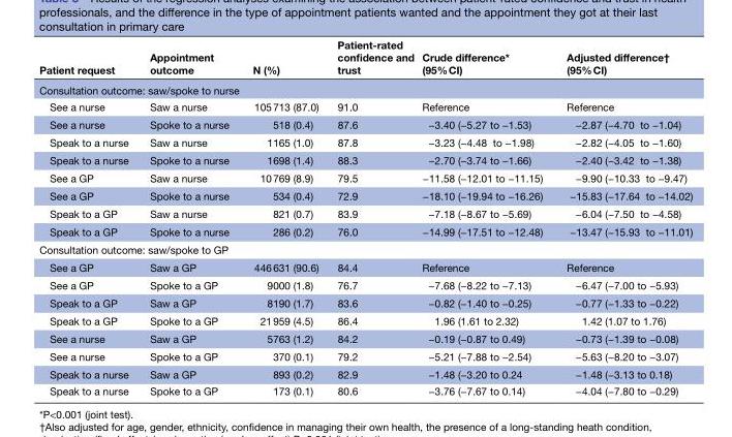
<table><thead><tr><td>Patient request</td><td>Appointment outcome</td><td>N (%)</td><td>Patient-rated confidence and trust</td><td>Crude difference* (95% CI)</td><td>Adjusted difference† (95% CI)</td></tr></thead><tbody><tr><td colspan="6">Consultation outcome: saw/spoke to nurse</td></tr><tr><td>See a nurse</td><td>Saw a nurse</td><td>105 713 (87.0)</td><td>91.0</td><td>Reference</td><td>Reference</td></tr><tr><td>See a nurse</td><td>Spoke to a nurse</td><td>518 (0.4)</td><td>87.6</td><td>−3.40 (−5.27 to −1.53)</td><td>−2.87 (−4.70 to −1.04)</td></tr><tr><td>Speak to a nurse</td><td>Saw a nurse</td><td>1165 (1.0)</td><td>87.8</td><td>−3.23 (−4.48 to −1.98)</td><td>−2.82 (−4.05 to −1.60)</td></tr><tr><td>Speak to a nurse</td><td>Spoke to a nurse</td><td>1698 (1.4)</td><td>88.3</td><td>−2.70 (−3.74 to −1.66)</td><td>−2.40 (−3.42 to −1.38)</td></tr><tr><td>See a GP</td><td>Saw a nurse</td><td>10 769 (8.9)</td><td>79.5</td><td>−11.58 (−12.01 to −11.15)</td><td>−9.90 (−10.33 to −9.47)</td></tr><tr><td>See a GP</td><td>Spoke to a nurse</td><td>534 (0.4)</td><td>72.9</td><td>−18.10 (−19.94 to −16.26)</td><td>−15.83 (−17.64 to −14.02)</td></tr><tr><td>Speak to a GP</td><td>Saw a nurse</td><td>821 (0.7)</td><td>83.9</td><td>−7.18 (−8.67 to −5.69)</td><td>−6.04 (−7.50 to −4.58)</td></tr><tr><td>Speak to a GP</td><td>Spoke to a nurse</td><td>286 (0.2)</td><td>76.0</td><td>−14.99 (−17.51 to −12.48)</td><td>−13.47 (−15.93 to −11.01)</td></tr><tr><td colspan="6">Consultation outcome: saw/spoke to GP</td></tr><tr><td>See a GP</td><td>Saw a GP</td><td>446 631 (90.6)</td><td>84.4</td><td>Reference</td><td>Reference</td></tr><tr><td>See a GP</td><td>Spoke to a GP</td><td>9000 (1.8)</td><td>76.7</td><td>−7.68 (−8.22 to −7.13)</td><td>−6.47 (−7.00 to −5.93)</td></tr><tr><td>Speak to a GP</td><td>Saw a GP</td><td>8190 (1.7)</td><td>83.6</td><td>−0.82 (−1.40 to −0.25)</td><td>−0.77 (−1.33 to −0.22)</td></tr><tr><td>Speak to a GP</td><td>Spoke to a GP</td><td>21 959 (4.5)</td><td>86.4</td><td>1.96 (1.61 to 2.32)</td><td>1.42 (1.07 to 1.76)</td></tr><tr><td>See a nurse</td><td>Saw a GP</td><td>5763 (1.2)</td><td>84.2</td><td>−0.19 (−0.87 to 0.49)</td><td>−0.73 (−1.39 to −0.08)</td></tr><tr><td>See a nurse</td><td>Spoke to a GP</td><td>370 (0.1)</td><td>79.2</td><td>−5.21 (−7.88 to −2.54)</td><td>−5.63 (−8.20 to −3.07)</td></tr><tr><td>Speak to a nurse</td><td>Saw a GP</td><td>893 (0.2)</td><td>82.9</td><td>−1.48 (−3.20 to 0.24</td><td>−1.48 (−3.13 to 0.18)</td></tr><tr><td>Speak to a nurse</td><td>Spoke to a GP</td><td>173 (0.1)</td><td>80.6</td><td>−3.76 (−7.67 to 0.14)</td><td>−4.04 (−7.80 to −0.29)</td></tr></tbody></table>